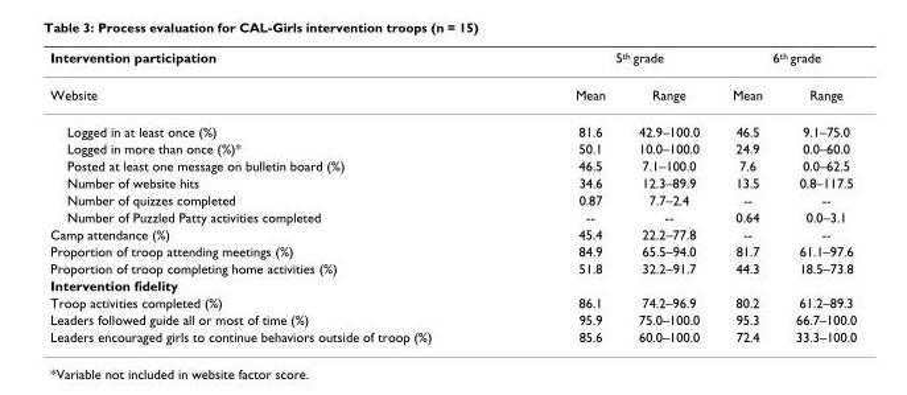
<table><thead><tr><td rowspan="2">Intervention participation Website</td><td colspan="2">5th grade</td><td colspan="2">6th grade</td></tr><tr><td>Mean</td><td>Range</td><td>Mean</td><td>Range</td></tr></thead><tbody><tr><td>Logged in at least once (%)</td><td>81.6</td><td>42.9–100.0</td><td>46.5</td><td>9.1–75.0</td></tr><tr><td>Logged in more than once (%)*</td><td>50.1</td><td>10.0–100.0</td><td>24.9</td><td>0.0–60.0</td></tr><tr><td>Posted at least one message on bulletin board (%)</td><td>46.5</td><td>7.1–100.0</td><td>7.6</td><td>0.0–62.5</td></tr><tr><td>Number of website hits</td><td>34.6</td><td>12.3–89.9</td><td>13.5</td><td>0.8–117.5</td></tr><tr><td>Number of quizzes completed</td><td>0.87</td><td>7.7–2.4</td><td>--</td><td>--</td></tr><tr><td>Number of Puzzled Patty activities completed</td><td>--</td><td>--</td><td>0.64</td><td>0.0–3.1</td></tr><tr><td>Camp attendance (%)</td><td>45.4</td><td>22.2–77.8</td><td>--</td><td>--</td></tr><tr><td>Proportion of troop attending meetings (%)</td><td>84.9</td><td>65.5–94.0</td><td>81.7</td><td>61.1–97.6</td></tr><tr><td>Proportion of troop completing home activities (%)</td><td>51.8</td><td>32.2–91.7</td><td>44.3</td><td>18.5–73.8</td></tr><tr><td colspan="5">Intervention fidelity</td></tr><tr><td>Troop activities completed (%)</td><td>86.1</td><td>74.2–96.9</td><td>80.2</td><td>61.2–89.3</td></tr><tr><td>Leaders followed guide all or most of time (%)</td><td>95.9</td><td>75.0–100.0</td><td>95.3</td><td>66.7–100.0</td></tr><tr><td>Leaders encouraged girls to continue behaviors outside of troop (%)</td><td>85.6</td><td>60.0–100.0</td><td>72.4</td><td>33.3–100.0</td></tr></tbody></table>